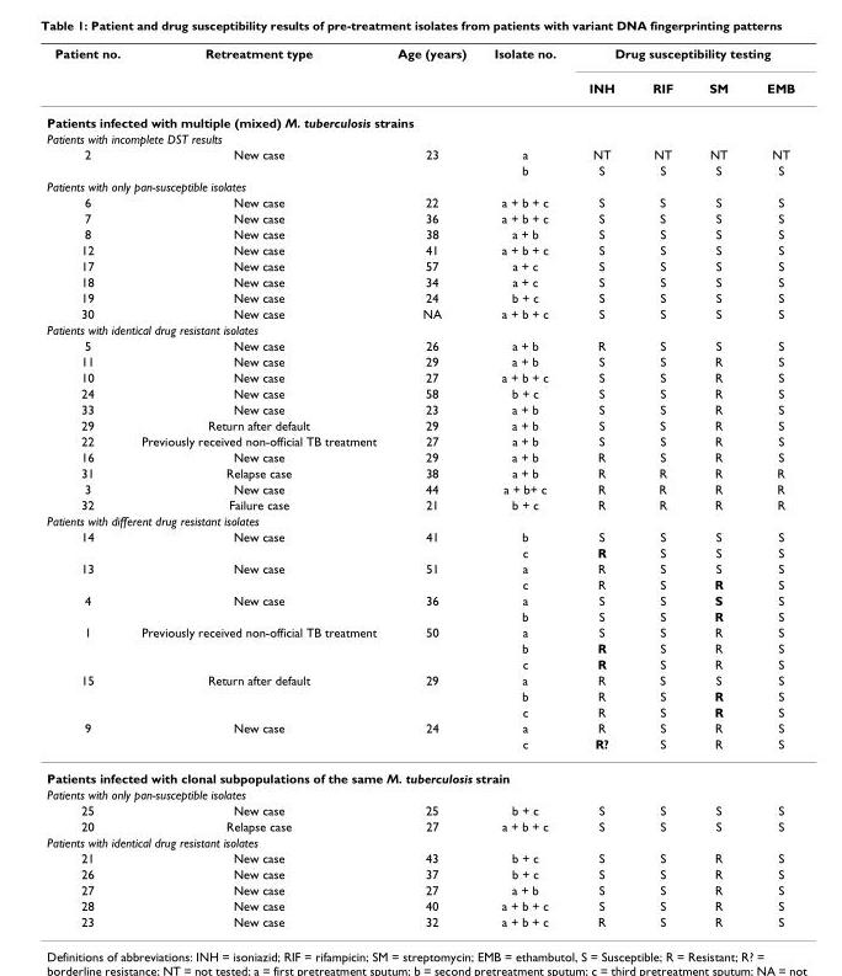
<table><thead><tr><td rowspan="2">Patient no.</td><td rowspan="2">Retreatment type</td><td rowspan="2">Age (years)</td><td rowspan="2">Isolate no.</td><td colspan="4">Drug susceptibility testing</td></tr><tr><td>INH</td><td>RIF</td><td>SM</td><td>EMB</td></tr></thead><tbody><tr><td colspan="8">Patients infected with multiple (mixed) M. tuberculosis strains</td></tr><tr><td colspan="8">Patients with incomplete DST results</td></tr><tr><td rowspan="2">2</td><td>New case</td><td>23</td><td>a</td><td>NT</td><td>NT</td><td>NT</td><td>NT</td></tr><tr><td></td><td></td><td>b</td><td>S</td><td>S</td><td>S</td><td>S</td></tr><tr><td colspan="8">Patients with only pan-susceptible isolates</td></tr><tr><td>6</td><td>New case</td><td>22</td><td>a + b + c</td><td>S</td><td>S</td><td>S</td><td>S</td></tr><tr><td>7</td><td>New case</td><td>36</td><td>a + b + c</td><td>S</td><td>S</td><td>S</td><td>S</td></tr><tr><td>8</td><td>New case</td><td>38</td><td>a + b</td><td>S</td><td>S</td><td>S</td><td>S</td></tr><tr><td>12</td><td>New case</td><td>41</td><td>a + b + c</td><td>S</td><td>S</td><td>S</td><td>S</td></tr><tr><td>17</td><td>New case</td><td>57</td><td>a + c</td><td>S</td><td>S</td><td>S</td><td>S</td></tr><tr><td>18</td><td>New case</td><td>34</td><td>a + c</td><td>S</td><td>S</td><td>S</td><td>S</td></tr><tr><td>19</td><td>New case</td><td>24</td><td>b + c</td><td>S</td><td>S</td><td>S</td><td>S</td></tr><tr><td>30</td><td>New case</td><td>NA</td><td>a + b + c</td><td>S</td><td>S</td><td>S</td><td>S</td></tr><tr><td colspan="8">Patients with identical drug resistant isolates</td></tr><tr><td>5</td><td>New case</td><td>26</td><td>a + b</td><td>R</td><td>S</td><td>S</td><td>S</td></tr><tr><td>11</td><td>New case</td><td>29</td><td>a + b</td><td>S</td><td>S</td><td>R</td><td>S</td></tr><tr><td>10</td><td>New case</td><td>27</td><td>a + b + c</td><td>S</td><td>S</td><td>R</td><td>S</td></tr><tr><td>24</td><td>New case</td><td>58</td><td>b + c</td><td>S</td><td>S</td><td>R</td><td>S</td></tr><tr><td>33</td><td>New case</td><td>23</td><td>a + b</td><td>S</td><td>S</td><td>R</td><td>S</td></tr><tr><td>29</td><td>Return after default</td><td>29</td><td>a + b</td><td>S</td><td>S</td><td>R</td><td>S</td></tr><tr><td>22</td><td>Previously received non-official TB treatment</td><td>27</td><td>a + b</td><td>S</td><td>S</td><td>R</td><td>S</td></tr><tr><td>16</td><td>New case</td><td>29</td><td>a + b</td><td>R</td><td>S</td><td>R</td><td>S</td></tr><tr><td>31</td><td>Relapse case</td><td>38</td><td>a + b</td><td>R</td><td>R</td><td>R</td><td>R</td></tr><tr><td>3</td><td>New case</td><td>44</td><td>a + b+ c</td><td>R</td><td>R</td><td>R</td><td>R</td></tr><tr><td>32</td><td>Failure case</td><td>21</td><td>b + c</td><td>R</td><td>R</td><td>R</td><td>R</td></tr><tr><td colspan="8">Patients with different drug resistant isolates</td></tr><tr><td rowspan="2">14</td><td>New case</td><td>41</td><td>b</td><td>S</td><td>S</td><td>S</td><td>S</td></tr><tr><td></td><td></td><td>c</td><td>R</td><td>S</td><td>S</td><td>S</td></tr><tr><td rowspan="2">13</td><td>New case</td><td>51</td><td>a</td><td>R</td><td>S</td><td>S</td><td>S</td></tr><tr><td></td><td></td><td>c</td><td>R</td><td>S</td><td>R</td><td>S</td></tr><tr><td rowspan="2">4</td><td>New case</td><td>36</td><td>a</td><td>S</td><td>S</td><td>S</td><td>S</td></tr><tr><td></td><td></td><td>b</td><td>S</td><td>S</td><td>R</td><td>S</td></tr><tr><td rowspan="3">1</td><td>Previously received non-official TB treatment</td><td>50</td><td>a</td><td>S</td><td>S</td><td>R</td><td>S</td></tr><tr><td></td><td></td><td>b</td><td>R</td><td>S</td><td>R</td><td>S</td></tr><tr><td></td><td></td><td>c</td><td>R</td><td>S</td><td>R</td><td>S</td></tr><tr><td rowspan="3">15</td><td>Return after default</td><td>29</td><td>a</td><td>R</td><td>S</td><td>S</td><td>S</td></tr><tr><td></td><td></td><td>b</td><td>R</td><td>S</td><td>R</td><td>S</td></tr><tr><td></td><td></td><td>c</td><td>R</td><td>S</td><td>R</td><td>S</td></tr><tr><td rowspan="2">9</td><td>New case</td><td>24</td><td>a</td><td>R</td><td>S</td><td>R</td><td>S</td></tr><tr><td></td><td></td><td>c</td><td>R?</td><td>S</td><td>R</td><td>S</td></tr><tr><td colspan="8">Patients infected with clonal subpopulations of the same M. tuberculosis strain</td></tr><tr><td colspan="8">Patients with only pan-susceptible isolates</td></tr><tr><td>25</td><td>New case</td><td>25</td><td>b + c</td><td>S</td><td>S</td><td>S</td><td>S</td></tr><tr><td>20</td><td>Relapse case</td><td>27</td><td>a + b + c</td><td>S</td><td>S</td><td>S</td><td>S</td></tr><tr><td colspan="8">Patients with identical drug resistant isolates</td></tr><tr><td>21</td><td>New case</td><td>43</td><td>b + c</td><td>S</td><td>S</td><td>R</td><td>S</td></tr><tr><td>26</td><td>New case</td><td>37</td><td>b + c</td><td>S</td><td>S</td><td>R</td><td>S</td></tr><tr><td>27</td><td>New case</td><td>27</td><td>a + b</td><td>S</td><td>S</td><td>R</td><td>S</td></tr><tr><td>28</td><td>New case</td><td>40</td><td>a + b + c</td><td>S</td><td>S</td><td>R</td><td>S</td></tr><tr><td>23</td><td>New case</td><td>32</td><td>a + b + c</td><td>R</td><td>S</td><td>R</td><td>S</td></tr></tbody></table>